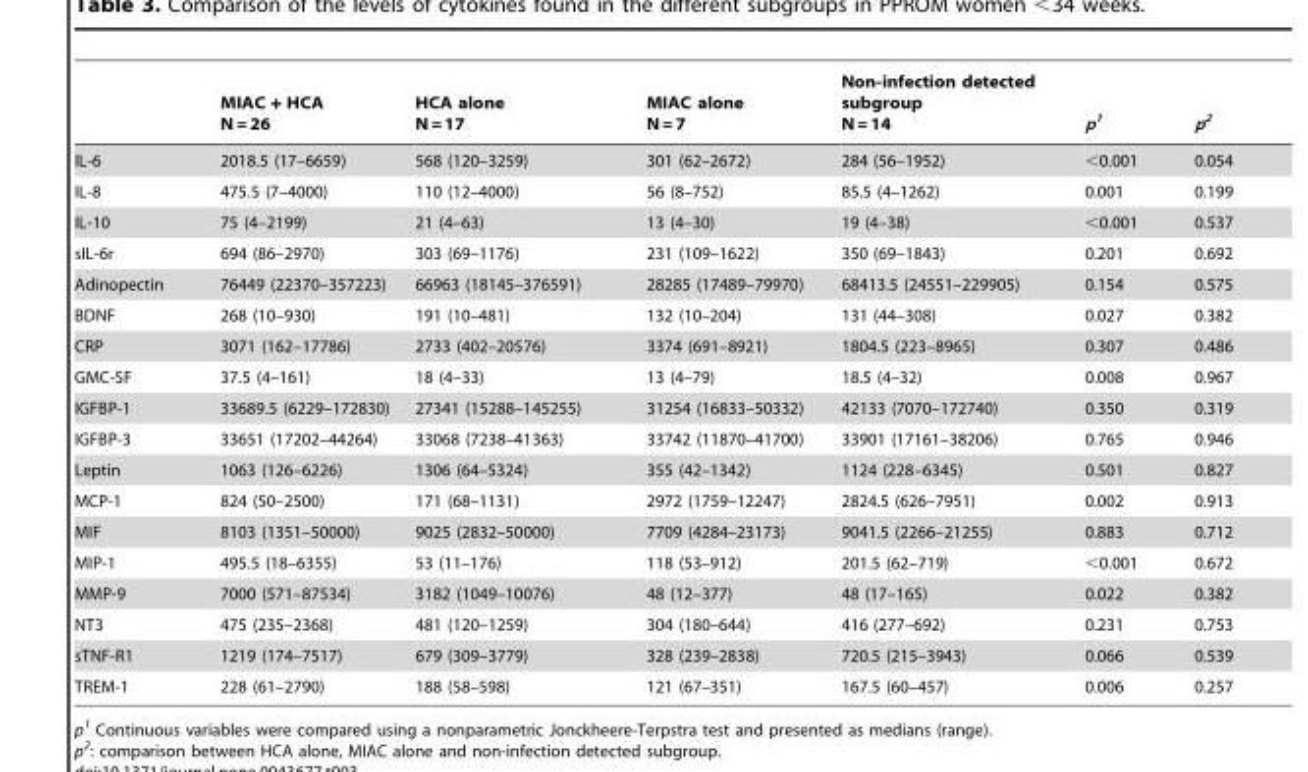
<table><thead><tr><td></td><td>MIAC + HCA N = 26</td><td>HCA alone N = 17</td><td>MIAC alone N = 7</td><td>Non-infection detected subgroup N = 14</td><td>p<sup>1</sup></td><td>p<sup>2</sup></td></tr></thead><tbody><tr><td>IL-6</td><td>2018.5 (17–6659)</td><td>568 (120–3259)</td><td>301 (62–2672)</td><td>284 (56–1952)</td><td>&lt;0.001</td><td>0.054</td></tr><tr><td>IL-8</td><td>475.5 (7–4000)</td><td>110 (12–4000)</td><td>56 (8–752)</td><td>85.5 (4–1262)</td><td>0.001</td><td>0.199</td></tr><tr><td>IL-10</td><td>75 (4–2199)</td><td>21 (4–63)</td><td>13 (4–30)</td><td>19 (4–38)</td><td>&lt;0.001</td><td>0.537</td></tr><tr><td>sIL-6r</td><td>694 (86–2970)</td><td>303 (69–1176)</td><td>231 (109–1622)</td><td>350 (69–1843)</td><td>0.201</td><td>0.692</td></tr><tr><td>Adinopectin</td><td>76449 (22370–357223)</td><td>66963 (18145–376591)</td><td>28285 (17489–79970)</td><td>68413.5 (24551–229905)</td><td>0.154</td><td>0.575</td></tr><tr><td>BDNF</td><td>268 (10–930)</td><td>191 (10–481)</td><td>132 (10–204)</td><td>131 (44–308)</td><td>0.027</td><td>0.382</td></tr><tr><td>CRP</td><td>3071 (162–17786)</td><td>2733 (402–20576)</td><td>3374 (691–8921)</td><td>1804.5 (223–8965)</td><td>0.307</td><td>0.486</td></tr><tr><td>GMC-SF</td><td>37.5 (4–161)</td><td>18 (4–33)</td><td>13 (4–79)</td><td>18.5 (4–32)</td><td>0.008</td><td>0.967</td></tr><tr><td>IGFBP-1</td><td>33689.5 (6229–172830)</td><td>27341 (15288–145255)</td><td>31254 (16833–50332)</td><td>42133 (7070–172740)</td><td>0.350</td><td>0.319</td></tr><tr><td>IGFBP-3</td><td>33651 (17202–44264)</td><td>33068 (7238–41363)</td><td>33742 (11870–41700)</td><td>33901 (17161–38206)</td><td>0.765</td><td>0.946</td></tr><tr><td>Leptin</td><td>1063 (126–6226)</td><td>1306 (64–5324)</td><td>355 (42–1342)</td><td>1124 (228–6345)</td><td>0.501</td><td>0.827</td></tr><tr><td>MCP-1</td><td>824 (50–2500)</td><td>171 (68–1131)</td><td>2972 (1759–12247)</td><td>2824.5 (626–7951)</td><td>0.002</td><td>0.913</td></tr><tr><td>MIF</td><td>8103 (1351–50000)</td><td>9025 (2832–50000)</td><td>7709 (4284–23173)</td><td>9041.5 (2266–21255)</td><td>0.883</td><td>0.712</td></tr><tr><td>MIP-1</td><td>495.5 (18–6355)</td><td>53 (11–176)</td><td>118 (53–912)</td><td>201.5 (62–719)</td><td>&lt;0.001</td><td>0.672</td></tr><tr><td>MMP-9</td><td>7000 (571–87534)</td><td>3182 (1049–10076)</td><td>48 (12–377)</td><td>48 (17–165)</td><td>0.022</td><td>0.382</td></tr><tr><td>NT3</td><td>475 (235–2368)</td><td>481 (120–1259)</td><td>304 (180–644)</td><td>416 (277–692)</td><td>0.231</td><td>0.753</td></tr><tr><td>sTNF-R1</td><td>1219 (174–7517)</td><td>679 (309–3779)</td><td>328 (239–2838)</td><td>720.5 (215–3943)</td><td>0.066</td><td>0.539</td></tr><tr><td>TREM-1</td><td>228 (61–2790)</td><td>188 (58–598)</td><td>121 (67–351)</td><td>167.5 (60–457)</td><td>0.006</td><td>0.257</td></tr></tbody></table>